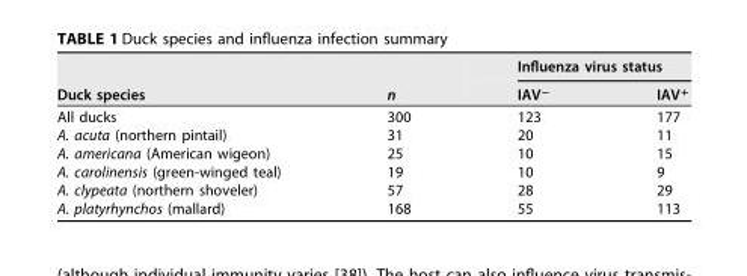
<table><thead><tr><td rowspan="2">Duck species</td><td rowspan="2">n</td><td colspan="2">Influenza virus status</td></tr><tr><td>IAV<sup>−</sup></td><td>IAV<sup>+</sup></td></tr></thead><tbody><tr><td>All ducks</td><td>300</td><td>123</td><td>177</td></tr><tr><td>A. acuta (northern pintail)</td><td>31</td><td>20</td><td>11</td></tr><tr><td>A. americana (American wigeon)</td><td>25</td><td>10</td><td>15</td></tr><tr><td>A. carolinensis (green-winged teal)</td><td>19</td><td>10</td><td>9</td></tr><tr><td>A. clypeata (northern shoveler)</td><td>57</td><td>28</td><td>29</td></tr><tr><td>A. platyrhynchos (mallard)</td><td>168</td><td>55</td><td>113</td></tr></tbody></table>